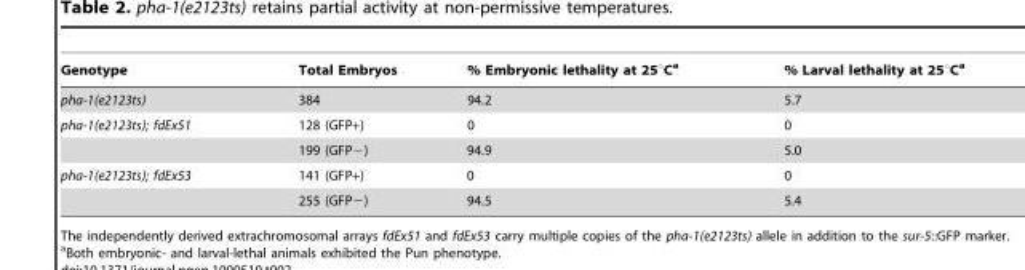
<table><thead><tr><td>Genotype</td><td>Total Embryos</td><td>% Embryonic lethality at 25°C<sup>a</sup></td><td>% Larval lethality at 25°C<sup>a</sup></td></tr></thead><tbody><tr><td>pha-1(e2123ts)</td><td>384</td><td>94.2</td><td>5.7</td></tr><tr><td rowspan="2">pha-1(e2123ts); fdEx51</td><td>128 (GFP+)</td><td>0</td><td>0</td></tr><tr><td>199 (GFP−)</td><td>94.9</td><td>5.0</td></tr><tr><td rowspan="2">pha-1(e2123ts); fdEx53</td><td>141 (GFP+)</td><td>0</td><td>0</td></tr><tr><td>255 (GFP−)</td><td>94.5</td><td>5.4</td></tr></tbody></table>